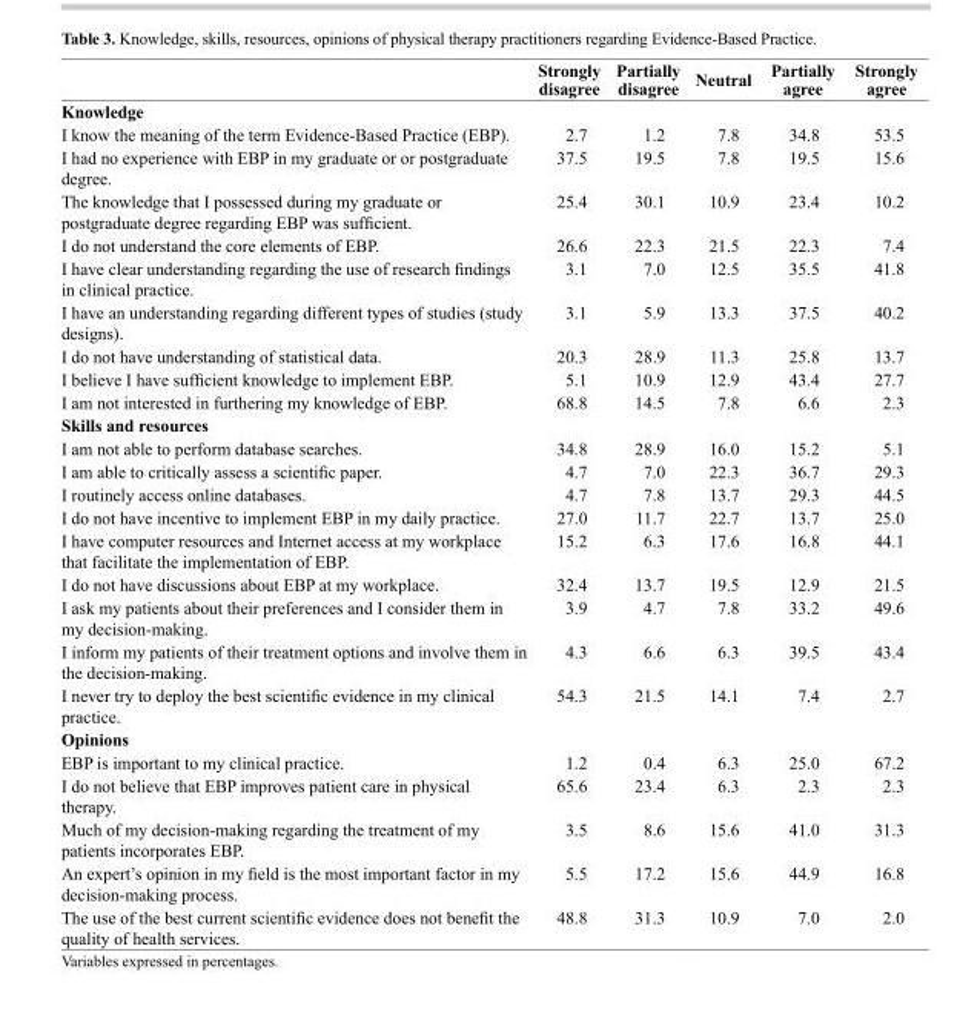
<table><thead><tr><td rowspan="2">Knowledge</td><td rowspan="2">Strongly disagree</td><td rowspan="2">Partially disagree</td><td rowspan="2">Neutral</td><td rowspan="2">Partially agree</td><td rowspan="2">Strongly agree</td></tr><tr></tr></thead><tbody><tr><td>I know the meaning of the term Evidence-Based Practice (EBP).</td><td>2.7</td><td>1.2</td><td>7.8</td><td>34.8</td><td>53.5</td></tr><tr><td>I had no experience with EBP in my graduate or or postgraduate degree.</td><td>37.5</td><td>19.5</td><td>7.8</td><td>19.5</td><td>15.6</td></tr><tr><td>The knowledge that I possessed during my graduate or postgraduate degree regarding EBP was sufficient.</td><td>25.4</td><td>30.1</td><td>10.9</td><td>23.4</td><td>10.2</td></tr><tr><td>I do not understand the core elements of EBP.</td><td>26.6</td><td>22.3</td><td>21.5</td><td>22.3</td><td>7.4</td></tr><tr><td>I have clear understanding regarding the use of research findings in clinical practice.</td><td>3.1</td><td>7.0</td><td>12.5</td><td>35.5</td><td>41.8</td></tr><tr><td>I have an understanding regarding different types of studies (study designs).</td><td>3.1</td><td>5.9</td><td>13.3</td><td>37.5</td><td>40.2</td></tr><tr><td>I do not have understanding of statistical data.</td><td>20.3</td><td>28.9</td><td>11.3</td><td>25.8</td><td>13.7</td></tr><tr><td>I believe I have sufficient knowledge to implement EBP.</td><td>5.1</td><td>10.9</td><td>12.9</td><td>43.4</td><td>27.7</td></tr><tr><td>I am not interested in furthering my knowledge of EBP.</td><td>68.8</td><td>14.5</td><td>7.8</td><td>6.6</td><td>2.3</td></tr><tr><td colspan="6">Skills and resources</td></tr><tr><td>I am not able to perform database searches.</td><td>34.8</td><td>28.9</td><td>16.0</td><td>15.2</td><td>5.1</td></tr><tr><td>I am able to critically assess a scientific paper.</td><td>4.7</td><td>7.0</td><td>22.3</td><td>36.7</td><td>29.3</td></tr><tr><td>I routinely access online databases.</td><td>4.7</td><td>7.8</td><td>13.7</td><td>29.3</td><td>44.5</td></tr><tr><td>I do not have incentive to implement EBP in my daily practice.</td><td>27.0</td><td>11.7</td><td>22.7</td><td>13.7</td><td>25.0</td></tr><tr><td>I have computer resources and Internet access at my workplace that facilitate the implementation of EBP.</td><td>15.2</td><td>6.3</td><td>17.6</td><td>16.8</td><td>44.1</td></tr><tr><td>I do not have discussions about EBP at my workplace.</td><td>32.4</td><td>13.7</td><td>19.5</td><td>12.9</td><td>21.5</td></tr><tr><td>I ask my patients about their preferences and I consider them in my decision-making.</td><td>3.9</td><td>4.7</td><td>7.8</td><td>33.2</td><td>49.6</td></tr><tr><td>I inform my patients of their treatment options and involve them in the decision-making.</td><td>4.3</td><td>6.6</td><td>6.3</td><td>39.5</td><td>43.4</td></tr><tr><td>I never try to deploy the best scientific evidence in my clinical practice.</td><td>54.3</td><td>21.5</td><td>14.1</td><td>7.4</td><td>2.7</td></tr><tr><td colspan="6">Opinions</td></tr><tr><td>EBP is important to my clinical practice.</td><td>1.2</td><td>0.4</td><td>6.3</td><td>25.0</td><td>67.2</td></tr><tr><td>I do not believe that EBP improves patient care in physical therapy.</td><td>65.6</td><td>23.4</td><td>6.3</td><td>2.3</td><td>2.3</td></tr><tr><td>Much of my decision-making regarding the treatment of my patients incorporates EBP.</td><td>3.5</td><td>8.6</td><td>15.6</td><td>41.0</td><td>31.3</td></tr><tr><td>An expert’s opinion in my field is the most important factor in my decision-making process.</td><td>5.5</td><td>17.2</td><td>15.6</td><td>44.9</td><td>16.8</td></tr><tr><td>The use of the best current scientific evidence does not benefit the quality of health services.</td><td>48.8</td><td>31.3</td><td>10.9</td><td>7.0</td><td>2.0</td></tr></tbody></table>